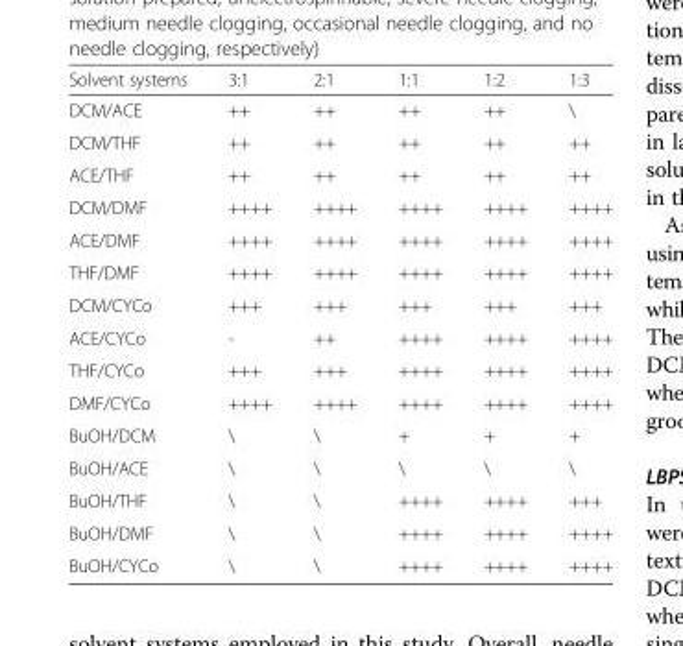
<table><thead><tr><td>Solvent systems</td><td>3:1</td><td>2:1</td><td>1:1</td><td>1:2</td><td>1:3</td></tr></thead><tbody><tr><td>DCM/ACE</td><td>++</td><td>++</td><td>++</td><td>++</td><td>\</td></tr><tr><td>DCM/THF</td><td>++</td><td>++</td><td>++</td><td>++</td><td>++</td></tr><tr><td>ACE/THF</td><td>++</td><td>++</td><td>++</td><td>++</td><td>++</td></tr><tr><td>DCM/DMF</td><td>++++</td><td>++++</td><td>++++</td><td>++++</td><td>++++</td></tr><tr><td>ACE/DMF</td><td>++++</td><td>++++</td><td>++++</td><td>++++</td><td>++++</td></tr><tr><td>THF/DMF</td><td>++++</td><td>++++</td><td>++++</td><td>++++</td><td>++++</td></tr><tr><td>DCM/CYCo</td><td>+++</td><td>+++</td><td>+++</td><td>+++</td><td>+++</td></tr><tr><td>ACE/CYCo</td><td>-</td><td>++</td><td>++++</td><td>++++</td><td>++++</td></tr><tr><td>THF/CYCo</td><td>+++</td><td>+++</td><td>++++</td><td>++++</td><td>++++</td></tr><tr><td>DMF/CYCo</td><td>++++</td><td>++++</td><td>++++</td><td>++++</td><td>++++</td></tr><tr><td>BuOH/DCM</td><td>\</td><td>\</td><td>+</td><td>+</td><td>+</td></tr><tr><td>BuOH/ACE</td><td>\</td><td>\</td><td>\</td><td>\</td><td>\</td></tr><tr><td>BuOH/THF</td><td>\</td><td>\</td><td>++++</td><td>++++</td><td>+++</td></tr><tr><td>BuOH/DMF</td><td>\</td><td>\</td><td>++++</td><td>++++</td><td>++++</td></tr><tr><td>BuOH/CYCo</td><td>\</td><td>\</td><td>++++</td><td>++++</td><td>++++</td></tr></tbody></table>